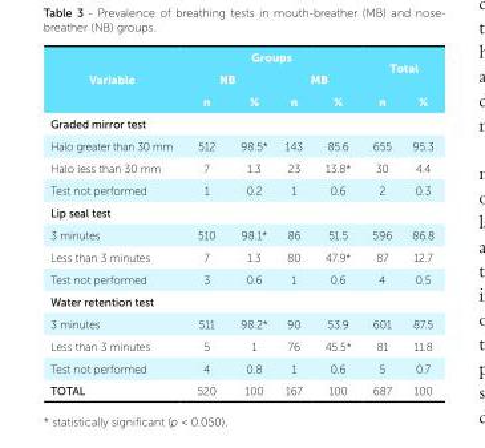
<table><thead><tr><td rowspan="3">Variable</td><td colspan="4">Groups</td><td rowspan="2" colspan="2">Total</td></tr><tr><td colspan="2">NB</td><td colspan="2">MB</td></tr><tr><td>n</td><td>%</td><td>n</td><td>%</td><td>n</td><td>%</td></tr></thead><tbody><tr><td colspan="7">Graded mirror test</td></tr><tr><td>Halo greater than 30 mm</td><td>512</td><td>98.5*</td><td>143</td><td>85.6</td><td>655</td><td>95.3</td></tr><tr><td>Halo less than 30 mm</td><td>7</td><td>1.3</td><td>23</td><td>13.8*</td><td>30</td><td>4.4</td></tr><tr><td>Test not performed</td><td>1</td><td>0.2</td><td>1</td><td>0.6</td><td>2</td><td>0.3</td></tr><tr><td colspan="7">Lip seal test</td></tr><tr><td>3 minutes</td><td>510</td><td>98.1*</td><td>86</td><td>51.5</td><td>596</td><td>86.8</td></tr><tr><td>Less than 3 minutes</td><td>7</td><td>1.3</td><td>80</td><td>47.9*</td><td>87</td><td>12.7</td></tr><tr><td>Test not performed</td><td>3</td><td>0.6</td><td>1</td><td>0.6</td><td>4</td><td>0.5</td></tr><tr><td colspan="7">Water retention test</td></tr><tr><td>3 minutes</td><td>511</td><td>98.2*</td><td>90</td><td>53.9</td><td>601</td><td>87.5</td></tr><tr><td>Less than 3 minutes</td><td>5</td><td>1</td><td>76</td><td>45.5*</td><td>81</td><td>11.8</td></tr><tr><td>Test not performed</td><td>4</td><td>0.8</td><td>1</td><td>0.6</td><td>5</td><td>0.7</td></tr><tr><td>TOTAL</td><td>520</td><td>100</td><td>167</td><td>100</td><td>687</td><td>100</td></tr></tbody></table>